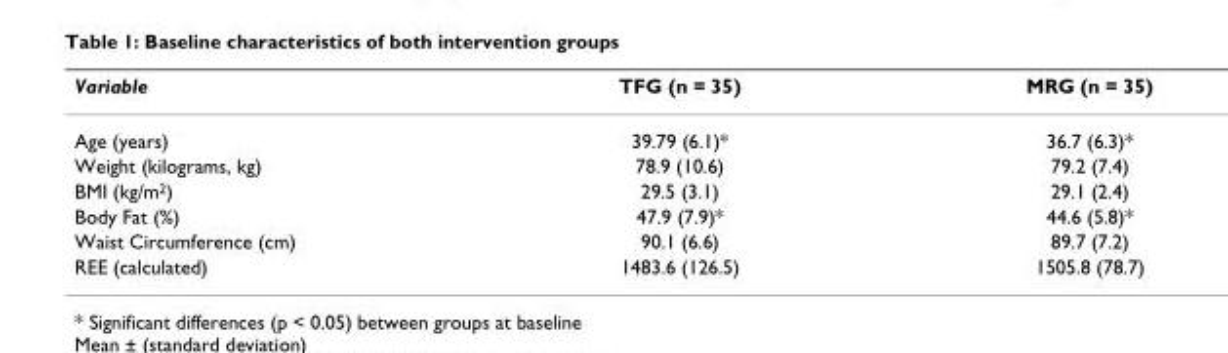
<table><thead><tr><td>Variable</td><td>TFG (n = 35)</td><td>MRG (n = 35)</td></tr></thead><tbody><tr><td>Age (years)</td><td>39.79 (6.1)*</td><td>36.7 (6.3)*</td></tr><tr><td>Weight (kilograms, kg)</td><td>78.9 (10.6)</td><td>79.2 (7.4)</td></tr><tr><td>BMI (kg/m<sup>2</sup>)</td><td>29.5 (3.1)</td><td>29.1 (2.4)</td></tr><tr><td>Body Fat (%)</td><td>47.9 (7.9)*</td><td>44.6 (5.8)*</td></tr><tr><td>Waist Circumference (cm)</td><td>90.1 (6.6)</td><td>89.7 (7.2)</td></tr><tr><td>REE (calculated)</td><td>1483.6 (126.5)</td><td>1505.8 (78.7)</td></tr></tbody></table>